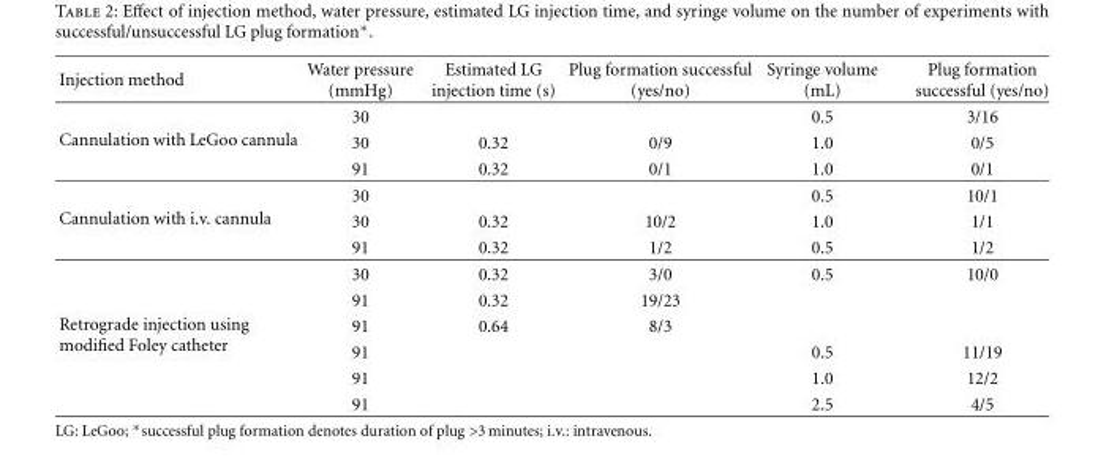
<table><thead><tr><td>Injection method</td><td>Water pressure (mmHg)</td><td>Estimated LG injection time (s)</td><td>Plug formation successful (yes/no)</td><td>Syringe volume (mL)</td><td>Plug formation successful (yes/no)</td></tr></thead><tbody><tr><td rowspan="3">Cannulation with LeGoo cannula</td><td>30</td><td></td><td></td><td>0.5</td><td>3/16</td></tr><tr><td>30</td><td>0.32</td><td>0/9</td><td>1.0</td><td>0/5</td></tr><tr><td>91</td><td>0.32</td><td>0/1</td><td>1.0</td><td>0/1</td></tr><tr><td rowspan="3">Cannulation with i.v. cannula</td><td>30</td><td></td><td></td><td>0.5</td><td>10/1</td></tr><tr><td>30</td><td>0.32</td><td>10/2</td><td>1.0</td><td>1/1</td></tr><tr><td>91</td><td>0.32</td><td>1/2</td><td>0.5</td><td>1/2</td></tr><tr><td rowspan="6">Retrograde injection using modified Foley catheter</td><td>30</td><td>0.32</td><td>3/0</td><td>0.5</td><td>10/0</td></tr><tr><td>91</td><td>0.32</td><td>19/23</td><td></td><td></td></tr><tr><td>91</td><td>0.64</td><td>8/3</td><td></td><td></td></tr><tr><td>91</td><td></td><td></td><td>0.5</td><td>11/19</td></tr><tr><td>91</td><td></td><td></td><td>1.0</td><td>12/2</td></tr><tr><td>91</td><td></td><td></td><td>2.5</td><td>4/5</td></tr></tbody></table>